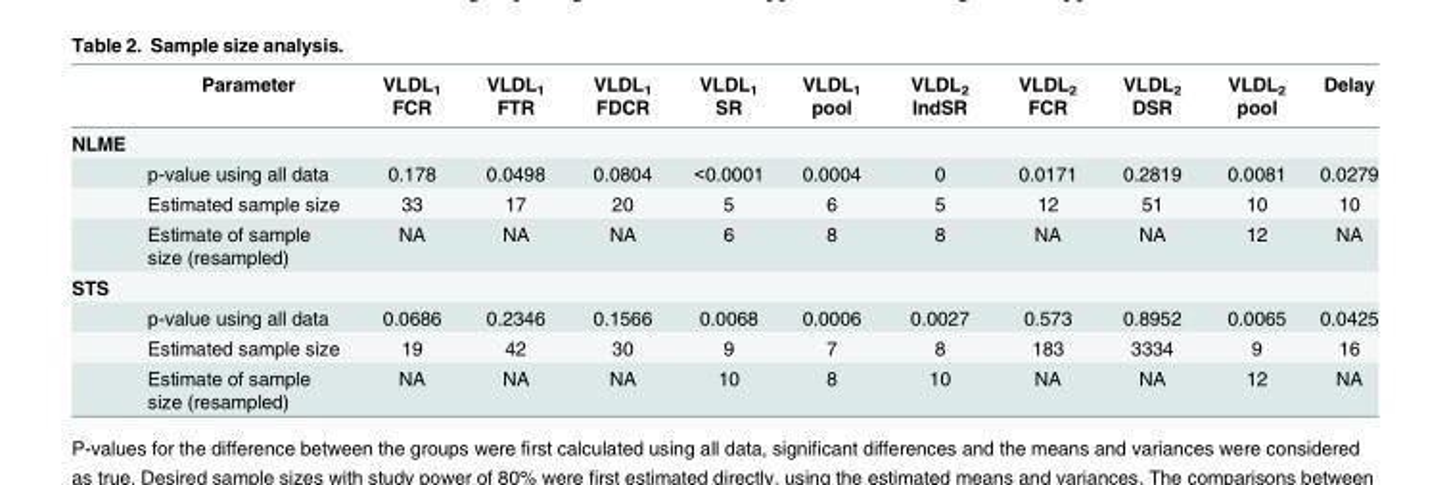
<table><thead><tr><td></td><td>Parameter</td><td>VLDL<sub>1</sub> FCR</td><td>VLDL<sub>1</sub> FTR</td><td>VLDL<sub>1</sub> FDCR</td><td>VLDL<sub>1</sub> SR</td><td>VLDL<sub>1</sub> pool</td><td>VLDL<sub>2</sub> IndSR</td><td>VLDL<sub>2</sub> FCR</td><td>VLDL<sub>2</sub> DSR</td><td>VLDL<sub>2</sub> pool</td><td>Delay</td></tr></thead><tbody><tr><td colspan="12">NLME</td></tr><tr><td></td><td>p-value using all data</td><td>0.178</td><td>0.0498</td><td>0.0804</td><td>&lt;0.0001</td><td>0.0004</td><td>0</td><td>0.0171</td><td>0.2819</td><td>0.0081</td><td>0.0279</td></tr><tr><td></td><td>Estimated sample size</td><td>33</td><td>17</td><td>20</td><td>5</td><td>6</td><td>5</td><td>12</td><td>51</td><td>10</td><td>10</td></tr><tr><td></td><td>Estimate of sample size (resampled)</td><td>NA</td><td>NA</td><td>NA</td><td>6</td><td>8</td><td>8</td><td>NA</td><td>NA</td><td>12</td><td>NA</td></tr><tr><td colspan="12">STS</td></tr><tr><td></td><td>p-value using all data</td><td>0.0686</td><td>0.2346</td><td>0.1566</td><td>0.0068</td><td>0.0006</td><td>0.0027</td><td>0.573</td><td>0.8952</td><td>0.0065</td><td>0.0425</td></tr><tr><td></td><td>Estimated sample size</td><td>19</td><td>42</td><td>30</td><td>9</td><td>7</td><td>8</td><td>183</td><td>3334</td><td>9</td><td>16</td></tr><tr><td></td><td>Estimate of sample size (resampled)</td><td>NA</td><td>NA</td><td>NA</td><td>10</td><td>8</td><td>10</td><td>NA</td><td>NA</td><td>12</td><td>NA</td></tr></tbody></table>